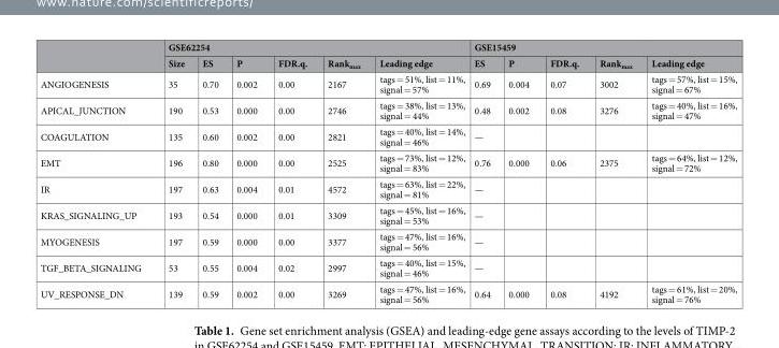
<table><thead><tr><td rowspan="2"></td><td colspan="6">GSE62254</td><td colspan="5">GSE15459</td></tr><tr><td>Size</td><td>ES</td><td>P</td><td>FDR.q.</td><td>Rank<sub>max</sub></td><td>Leading edge</td><td>ES</td><td>P</td><td>FDR.q.</td><td>Rank<sub>max</sub></td><td>Leading edge</td></tr></thead><tbody><tr><td>ANGIOGENESIS</td><td>35</td><td>0.70</td><td>0.002</td><td>0.00</td><td>2167</td><td>tags = 51%, list = 11%, signal = 57%</td><td>0.69</td><td>0.004</td><td>0.07</td><td>3002</td><td>tags = 57%, list = 15%, signal = 67%</td></tr><tr><td>APICAL_JUNCTION</td><td>190</td><td>0.53</td><td>0.000</td><td>0.00</td><td>2746</td><td>tags = 38%, list = 13%, signal = 44%</td><td>0.48</td><td>0.002</td><td>0.08</td><td>3276</td><td>tags = 40%, list = 16%, signal = 47%</td></tr><tr><td>COAGULATION</td><td>135</td><td>0.60</td><td>0.002</td><td>0.00</td><td>2821</td><td>tags = 40%, list = 14%, signal = 46%</td><td>—</td><td></td><td></td><td></td><td></td></tr><tr><td>EMT</td><td>196</td><td>0.80</td><td>0.000</td><td>0.00</td><td>2525</td><td>tags = 73%, list = 12%, signal = 83%</td><td>0.76</td><td>0.000</td><td>0.06</td><td>2375</td><td>tags = 64%, list = 12%, signal = 72%</td></tr><tr><td>IR</td><td>197</td><td>0.63</td><td>0.004</td><td>0.01</td><td>4572</td><td>tags = 63%, list = 22%, signal = 81%</td><td>—</td><td></td><td></td><td></td><td></td></tr><tr><td>KRAS_SIGNALING_UP</td><td>193</td><td>0.54</td><td>0.000</td><td>0.01</td><td>3309</td><td>tags = 45%, list = 16%, signal = 53%</td><td>—</td><td></td><td></td><td></td><td></td></tr><tr><td>MYOGENESIS</td><td>197</td><td>0.59</td><td>0.000</td><td>0.00</td><td>3377</td><td>tags = 47%, list = 16%, signal = 56%</td><td>—</td><td></td><td></td><td></td><td></td></tr><tr><td>TGF_BETA_SIGNALING</td><td>53</td><td>0.55</td><td>0.004</td><td>0.02</td><td>2997</td><td>tags = 40%, list = 15%, signal = 46%</td><td>—</td><td></td><td></td><td></td><td></td></tr><tr><td>UV_RESPONSE_DN</td><td>139</td><td>0.59</td><td>0.002</td><td>0.00</td><td>3269</td><td>tags = 47%, list = 16%, signal = 56%</td><td>0.64</td><td>0.000</td><td>0.08</td><td>4192</td><td>tags = 61%, list = 20%, signal = 76%</td></tr></tbody></table>